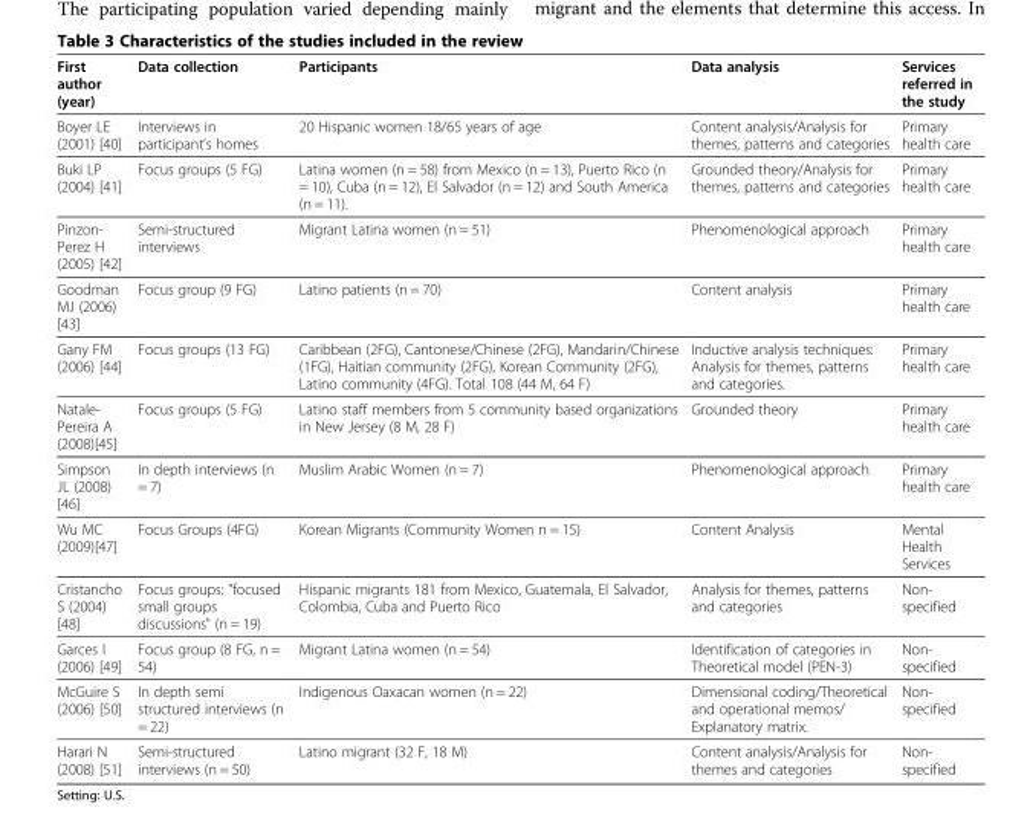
<table><thead><tr><td>First author (year)</td><td>Data collection</td><td>Participants</td><td>Data analysis</td><td>Services referred in the study</td></tr></thead><tbody><tr><td>Boyer LE (2001) [40]</td><td>Interviews in participant’s homes</td><td>20 Hispanic women 18/65 years of age</td><td>Content analysis/Analysis for themes, patterns and categories</td><td>Primary health care</td></tr><tr><td>Buki LP (2004) [41]</td><td>Focus groups (5 FG)</td><td>Latina women (n = 58) from Mexico (n = 13), Puerto Rico (n = 10), Cuba (n = 12), El Salvador (n = 12) and South America (n = 11).</td><td>Grounded theory/Analysis for themes, patterns and categories</td><td>Primary health care</td></tr><tr><td>Pinzon- Perez H (2005) [42]</td><td>Semi-structured interviews</td><td>Migrant Latina women (n = 51)</td><td>Phenomenological approach</td><td>Primary health care</td></tr><tr><td>Goodman MJ (2006) [43]</td><td>Focus group (9 FG)</td><td>Latino patients (n = 70)</td><td>Content analysis</td><td>Primary health care</td></tr><tr><td>Gany FM (2006) [44]</td><td>Focus groups (13 FG)</td><td>Caribbean (2FG), Cantonese/Chinese (2FG), Mandarin/Chinese (1FG), Haitian community (2FG), Korean Community (2FG), Latino community (4FG). Total 108 (44 M, 64 F)</td><td>Inductive analysis techniques: Analysis for themes, patterns and categories.</td><td>Primary health care</td></tr><tr><td>Natale- Pereira A (2008)[45]</td><td>Focus groups (5 FG)</td><td>Latino staff members from 5 community based organizations in New Jersey (8 M, 28 F)</td><td>Grounded theory</td><td>Primary health care</td></tr><tr><td>Simpson JL (2008) [46]</td><td>In depth interviews (n = 7)</td><td>Muslim Arabic Women (n = 7)</td><td>Phenomenological approach</td><td>Primary health care</td></tr><tr><td>Wu MC (2009)[47]</td><td>Focus Groups (4FG)</td><td>Korean Migrants (Community Women n = 15)</td><td>Content Analysis</td><td>Mental Health Services</td></tr><tr><td>Cristancho S (2004) [48]</td><td>Focus groups: &quot;focused small groups discussions&quot; (n = 19)</td><td>Hispanic migrants 181 from Mexico, Guatemala, El Salvador, Colombia, Cuba and Puerto Rico</td><td>Analysis for themes, patterns and categories</td><td>Non- specified</td></tr><tr><td>Garces I (2006) [49]</td><td>Focus group (8 FG, n = 54)</td><td>Migrant Latina women (n = 54)</td><td>Identification of categories in Theoretical model (PEN-3)</td><td>Non- specified</td></tr><tr><td>McGuire S (2006) [50]</td><td>In depth semi structured interviews (n = 22)</td><td>Indigenous Oaxacan women (n = 22)</td><td>Dimensional coding/Theoretical and operational memos/ Explanatory matrix.</td><td>Non- specified</td></tr><tr><td>Harari N (2008) [51]</td><td>Semi-structured interviews (n = 50)</td><td>Latino migrant (32 F, 18 M)</td><td>Content analysis/Analysis for themes and categories</td><td>Non- specified</td></tr></tbody></table>